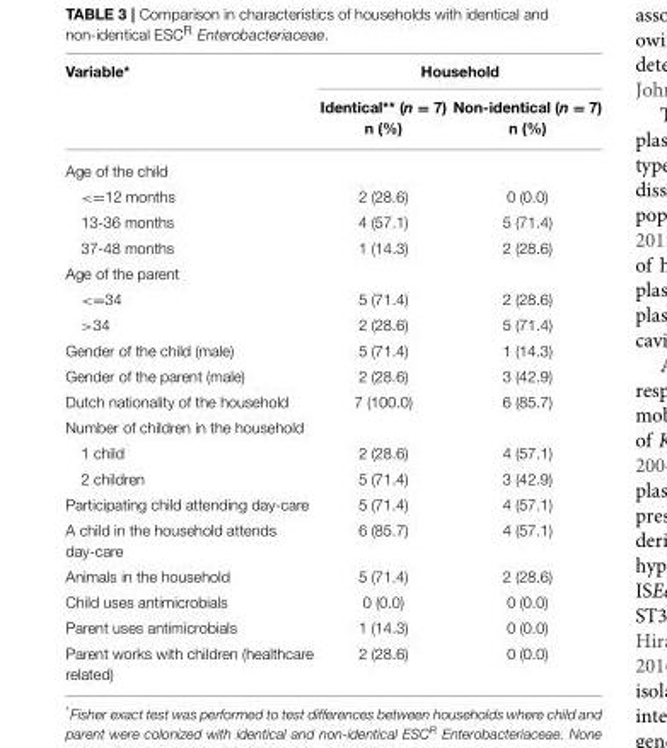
<table><thead><tr><td rowspan="2">Variable*</td><td colspan="2">Household</td></tr><tr><td>Identical** (n = 7) n (%)</td><td>Non-identical (n = 7) n (%)</td></tr></thead><tbody><tr><td colspan="3">Age of the child</td></tr><tr><td>&lt;=12 months</td><td>2 (28.6)</td><td>0 (0.0)</td></tr><tr><td>13-36 months</td><td>4 (57.1)</td><td>5 (71.4)</td></tr><tr><td>37-48 months</td><td>1 (14.3)</td><td>2 (28.6)</td></tr><tr><td colspan="3">Age of the parent</td></tr><tr><td>&lt;=34</td><td>5 (71.4)</td><td>2 (28.6)</td></tr><tr><td>&gt;34</td><td>2 (28.6)</td><td>5 (71.4)</td></tr><tr><td>Gender of the child (male)</td><td>5 (71.4)</td><td>1 (14.3)</td></tr><tr><td>Gender of the parent (male)</td><td>2 (28.6)</td><td>3 (42.9)</td></tr><tr><td>Dutch nationality of the household</td><td>7 (100.0)</td><td>6 (85.7)</td></tr><tr><td colspan="3">Number of children in the household</td></tr><tr><td>1 child</td><td>2 (28.6)</td><td>4 (57.1)</td></tr><tr><td>2 children</td><td>5 (71.4)</td><td>3 (42.9)</td></tr><tr><td>Participating child attending day-care</td><td>5 (71.4)</td><td>4 (57.1)</td></tr><tr><td>A child in the household attends day-care</td><td>6 (85.7)</td><td>4 (57.1)</td></tr><tr><td>Animals in the household</td><td>5 (71.4)</td><td>2 (28.6)</td></tr><tr><td>Child uses antimicrobials</td><td>0 (0.0)</td><td>0 (0.0)</td></tr><tr><td>Parent uses antimicrobials</td><td>1 (14.3)</td><td>0 (0.0)</td></tr><tr><td>Parent works with children (healthcare related)</td><td>2 (28.6)</td><td>0 (0.0)</td></tr></tbody></table>